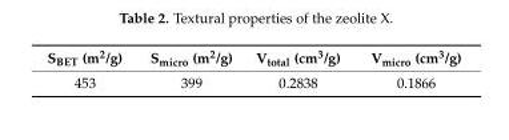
<table><thead><tr><td>S<sub>BET</sub> (m<sup>2</sup>/g)</td><td>S<sub>micro</sub> (m<sup>2</sup>/g)</td><td>V<sub>total</sub> (cm<sup>3</sup>/g)</td><td>V<sub>micro</sub> (cm<sup>3</sup>/g)</td></tr></thead><tbody><tr><td>453</td><td>399</td><td>0.2838</td><td>0.1866</td></tr></tbody></table>